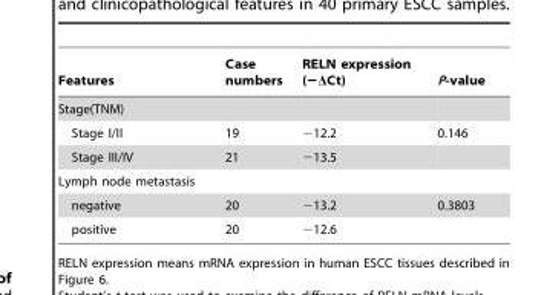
<table><thead><tr><td>Features</td><td>Case numbers</td><td>RELN expression (−ΔCt)</td><td>P-value</td></tr></thead><tbody><tr><td colspan="4">Stage(TNM)</td></tr><tr><td>Stage I/II</td><td>19</td><td>−12.2</td><td>0.146</td></tr><tr><td>Stage III/IV</td><td>21</td><td>−13.5</td><td></td></tr><tr><td colspan="4">Lymph node metastasis</td></tr><tr><td>negative</td><td>20</td><td>−13.2</td><td>0.3803</td></tr><tr><td>positive</td><td>20</td><td>−12.6</td><td></td></tr></tbody></table>